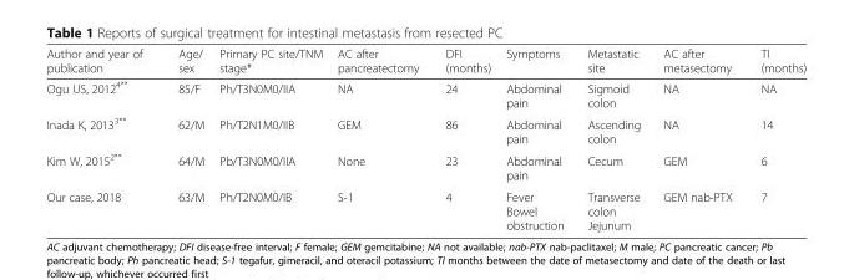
<table><thead><tr><td>Author and year of publication</td><td>Age/ sex</td><td>Primary PC site/TNM stage*</td><td>AC after pancreatectomy</td><td>DFI (months)</td><td>Symptoms</td><td>Metastatic site</td><td>AC after metasectomy</td><td>TI (months)</td></tr></thead><tbody><tr><td>Ogu US, 2012<sup>4**</sup></td><td>85/F</td><td>Ph/T3N0M0/IIA</td><td>NA</td><td>24</td><td>Abdominal pain</td><td>Sigmoid colon</td><td>NA</td><td>NA</td></tr><tr><td>Inada K, 2013<sup>3**</sup></td><td>62/M</td><td>Ph/T2N1M0/IIB</td><td>GEM</td><td>86</td><td>Abdominal pain</td><td>Ascending colon</td><td>NA</td><td>14</td></tr><tr><td>Kim W, 2015<sup>2**</sup></td><td>64/M</td><td>Pb/T3N0M0/IIA</td><td>None</td><td>23</td><td>Abdominal pain</td><td>Cecum</td><td>GEM</td><td>6</td></tr><tr><td>Our case, 2018</td><td>63/M</td><td>Ph/T2N0M0/IB</td><td>S-1</td><td>4</td><td>Fever Bowel obstruction</td><td>Transverse colon Jejunum</td><td>GEM nab-PTX</td><td>7</td></tr></tbody></table>